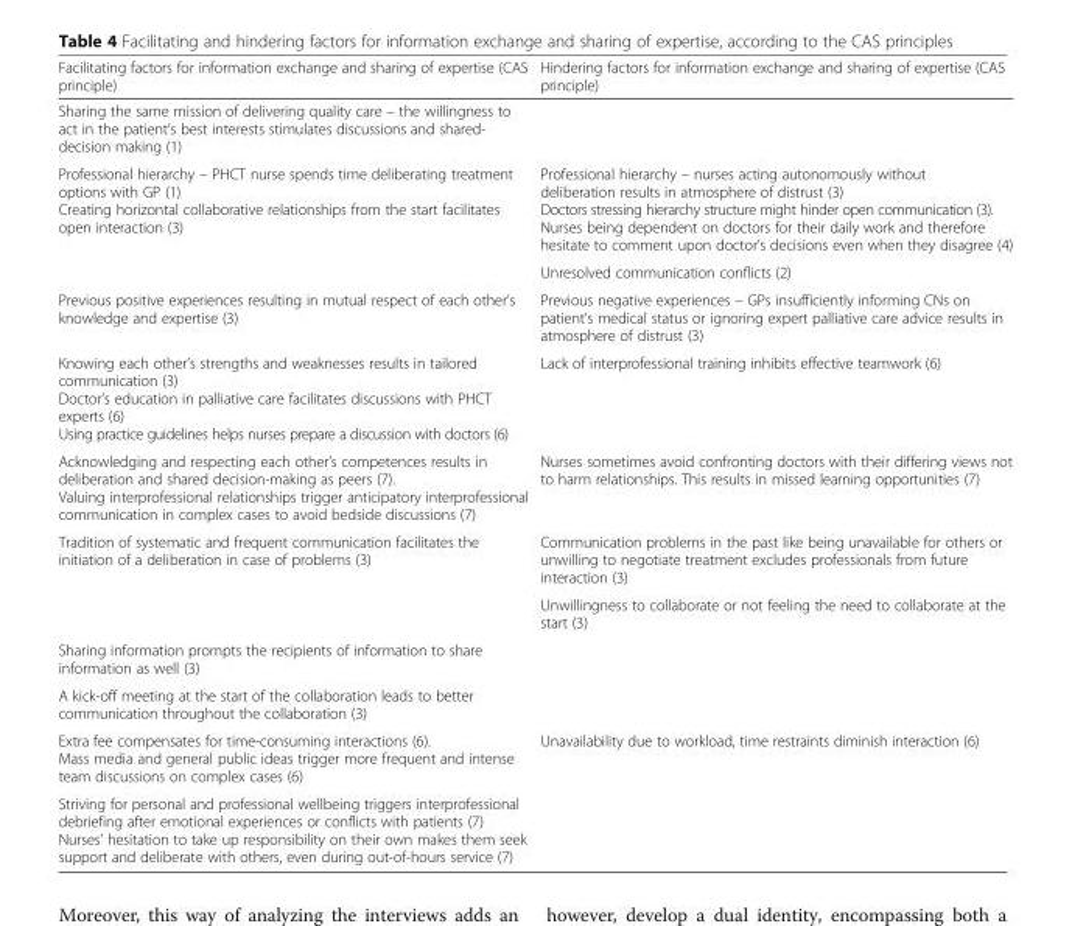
<table><thead><tr><td>Facilitating factors for information exchange and sharing of expertise (CAS principle)</td><td>Hindering factors for information exchange and sharing of expertise (CAS principle)</td></tr></thead><tbody><tr><td colspan="2">Sharing the same mission of delivering quality care – the willingness to act in the patient’s best interests stimulates discussions and shared- decision making (1)</td></tr><tr><td rowspan="2">Professional hierarchy – PHCT nurse spends time deliberating treatment options with GP (1) Creating horizontal collaborative relationships from the start facilitates open interaction (3)</td><td>Professional hierarchy – nurses acting autonomously without deliberation results in atmosphere of distrust (3) Doctors stressing hierarchy structure might hinder open communication (3). Nurses being dependent on doctors for their daily work and therefore hesitate to comment upon doctor’s decisions even when they disagree (4)</td></tr><tr><td>Unresolved communication conflicts (2)</td></tr><tr><td>Previous positive experiences resulting in mutual respect of each other’s knowledge and expertise (3)</td><td>Previous negative experiences – GPs insufficiently informing CNs on patient’s medical status or ignoring expert palliative care advice results in atmosphere of distrust (3)</td></tr><tr><td>Knowing each other’s strengths and weaknesses results in tailored communication (3) Doctor’s education in palliative care facilitates discussions with PHCT experts (6) Using practice guidelines helps nurses prepare a discussion with doctors (6)</td><td>Lack of interprofessional training inhibits effective teamwork (6)</td></tr><tr><td>Acknowledging and respecting each other’s competences results in deliberation and shared decision-making as peers (7). Valuing interprofessional relationships trigger anticipatory interprofessional communication in complex cases to avoid bedside discussions (7)</td><td>Nurses sometimes avoid confronting doctors with their differing views not to harm relationships. This results in missed learning opportunities (7)</td></tr><tr><td rowspan="2">Tradition of systematic and frequent communication facilitates the initiation of a deliberation in case of problems (3)</td><td>Communication problems in the past like being unavailable for others or unwilling to negotiate treatment excludes professionals from future interaction (3)</td></tr><tr><td>Unwillingness to collaborate or not feeling the need to collaborate at the start (3)</td></tr><tr><td colspan="2">Sharing information prompts the recipients of information to share information as well (3)</td></tr><tr><td colspan="2">A kick-off meeting at the start of the collaboration leads to better communication throughout the collaboration (3)</td></tr><tr><td>Extra fee compensates for time-consuming interactions (6). Mass media and general public ideas trigger more frequent and intense team discussions on complex cases (6)</td><td>Unavailability due to workload, time restraints diminish interaction (6)</td></tr><tr><td>Striving for personal and professional wellbeing triggers interprofessional debriefing after emotional experiences or conflicts with patients (7) Nurses’ hesitation to take up responsibility on their own makes them seek support and deliberate with others, even during out-of-hours service (7)</td><td></td></tr></tbody></table>